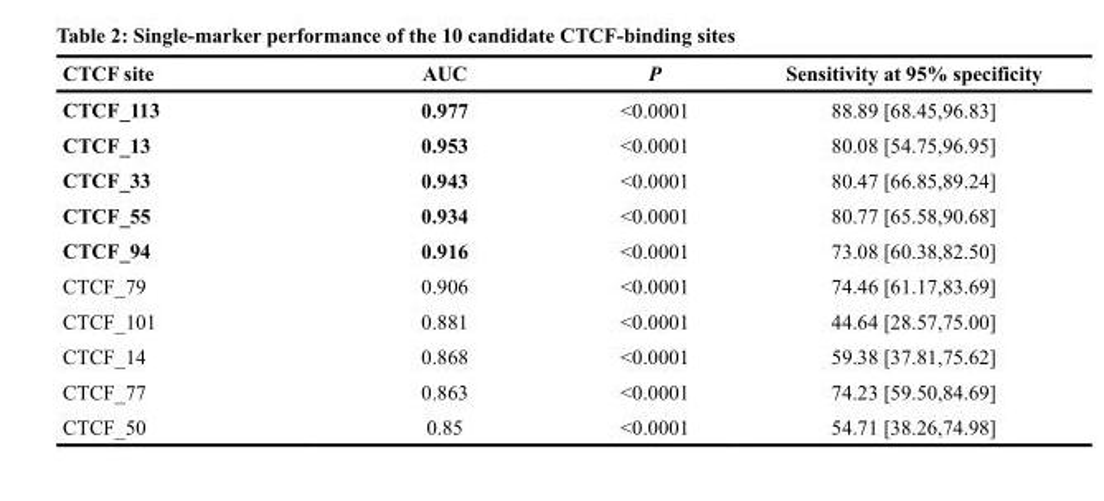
<table><thead><tr><td>CTCF site</td><td>AUC</td><td>P</td><td>Sensitivity at 95% specificity</td></tr></thead><tbody><tr><td>CTCF_113</td><td>0.977</td><td>&lt;0.0001</td><td>88.89 [68.45,96.83]</td></tr><tr><td>CTCF_13</td><td>0.953</td><td>&lt;0.0001</td><td>80.08 [54.75,96.95]</td></tr><tr><td>CTCF_33</td><td>0.943</td><td>&lt;0.0001</td><td>80.47 [66.85,89.24]</td></tr><tr><td>CTCF_55</td><td>0.934</td><td>&lt;0.0001</td><td>80.77 [65.58,90.68]</td></tr><tr><td>CTCF_94</td><td>0.916</td><td>&lt;0.0001</td><td>73.08 [60.38,82.50]</td></tr><tr><td>CTCF_79</td><td>0.906</td><td>&lt;0.0001</td><td>74.46 [61.17,83.69]</td></tr><tr><td>CTCF_101</td><td>0.881</td><td>&lt;0.0001</td><td>44.64 [28.57,75.00]</td></tr><tr><td>CTCF_14</td><td>0.868</td><td>&lt;0.0001</td><td>59.38 [37.81,75.62]</td></tr><tr><td>CTCF_77</td><td>0.863</td><td>&lt;0.0001</td><td>74.23 [59.50,84.69]</td></tr><tr><td>CTCF_50</td><td>0.85</td><td>&lt;0.0001</td><td>54.71 [38.26,74.98]</td></tr></tbody></table>